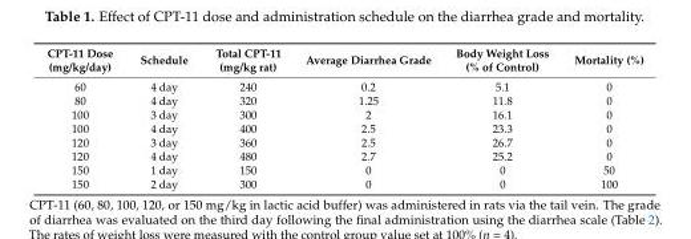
<table><thead><tr><td>CPT-11 Dose (mg/kg/day)</td><td>Schedule</td><td>Total CPT-11 (mg/kg rat)</td><td>Average Diarrhea Grade</td><td>Body Weight Loss (% of Control)</td><td>Mortality (%)</td></tr></thead><tbody><tr><td>60</td><td>4 day</td><td>240</td><td>0.2</td><td>5.1</td><td>0</td></tr><tr><td>80</td><td>4 day</td><td>320</td><td>1.25</td><td>11.8</td><td>0</td></tr><tr><td>100</td><td>3 day</td><td>300</td><td>2</td><td>16.1</td><td>0</td></tr><tr><td>100</td><td>4 day</td><td>400</td><td>2.5</td><td>23.3</td><td>0</td></tr><tr><td>120</td><td>3 day</td><td>360</td><td>2.5</td><td>26.7</td><td>0</td></tr><tr><td>120</td><td>4 day</td><td>480</td><td>2.7</td><td>25.2</td><td>0</td></tr><tr><td>150</td><td>1 day</td><td>150</td><td>0</td><td>0</td><td>50</td></tr><tr><td>150</td><td>2 day</td><td>300</td><td>0</td><td>0</td><td>100</td></tr></tbody></table>